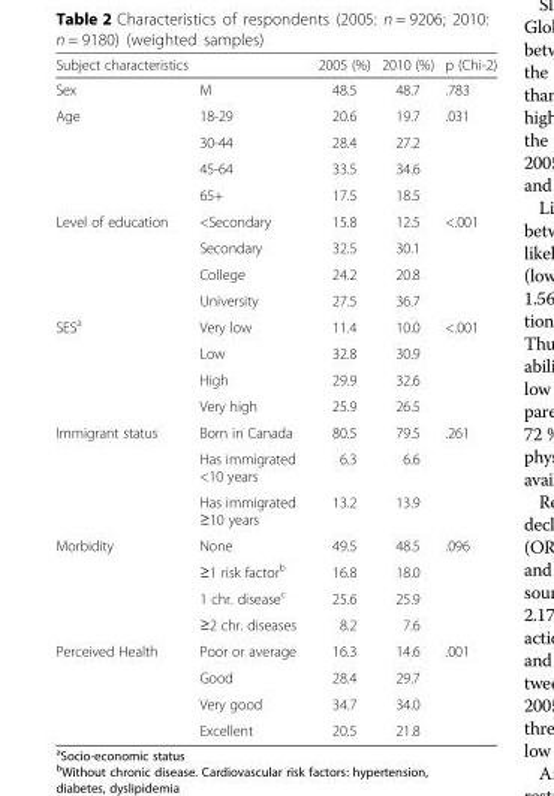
<table><thead><tr><td>Subject characteristics</td><td></td><td>2005 (%)</td><td>2010 (%)</td><td>p (Chi-2)</td></tr></thead><tbody><tr><td>Sex</td><td>M</td><td>48.5</td><td>48.7</td><td>.783</td></tr><tr><td rowspan="4">Age</td><td>18-29</td><td>20.6</td><td>19.7</td><td>.031</td></tr><tr><td>30-44</td><td>28.4</td><td>27.2</td><td></td></tr><tr><td>45-64</td><td>33.5</td><td>34.6</td><td></td></tr><tr><td>65+</td><td>17.5</td><td>18.5</td><td></td></tr><tr><td rowspan="4">Level of education</td><td>&lt;Secondary</td><td>15.8</td><td>12.5</td><td>&lt;.001</td></tr><tr><td>Secondary</td><td>32.5</td><td>30.1</td><td></td></tr><tr><td>College</td><td>24.2</td><td>20.8</td><td></td></tr><tr><td>University</td><td>27.5</td><td>36.7</td><td></td></tr><tr><td rowspan="4">SES<sup>a</sup></td><td>Very low</td><td>11.4</td><td>10.0</td><td>&lt;.001</td></tr><tr><td>Low</td><td>32.8</td><td>30.9</td><td></td></tr><tr><td>High</td><td>29.9</td><td>32.6</td><td></td></tr><tr><td>Very high</td><td>25.9</td><td>26.5</td><td></td></tr><tr><td rowspan="3">Immigrant status</td><td>Born in Canada</td><td>80.5</td><td>79.5</td><td>.261</td></tr><tr><td>Has immigrated &lt;10 years</td><td>6.3</td><td>6.6</td><td></td></tr><tr><td>Has immigrated ≥10 years</td><td>13.2</td><td>13.9</td><td></td></tr><tr><td rowspan="4">Morbidity</td><td>None</td><td>49.5</td><td>48.5</td><td>.096</td></tr><tr><td>≥1 risk factor<sup>b</sup></td><td>16.8</td><td>18.0</td><td></td></tr><tr><td>1 chr. disease<sup>c</sup></td><td>25.6</td><td>25.9</td><td></td></tr><tr><td>≥2 chr. diseases</td><td>8.2</td><td>7.6</td><td></td></tr><tr><td rowspan="4">Perceived Health</td><td>Poor or average</td><td>16.3</td><td>14.6</td><td>.001</td></tr><tr><td>Good</td><td>28.4</td><td>29.7</td><td></td></tr><tr><td>Very good</td><td>34.7</td><td>34.0</td><td></td></tr><tr><td>Excellent</td><td>20.5</td><td>21.8</td><td></td></tr></tbody></table>